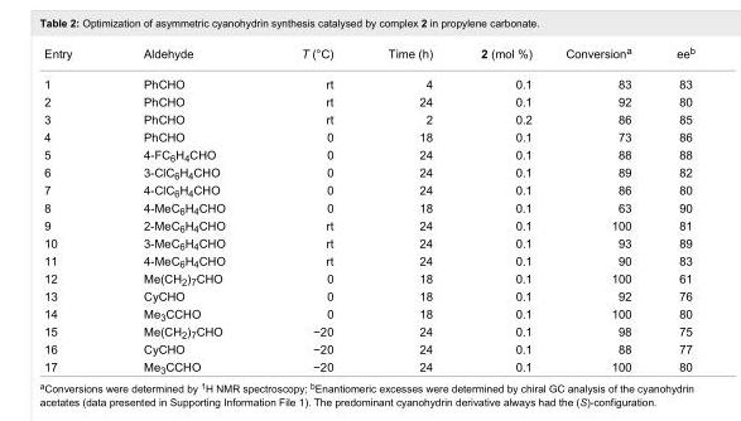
<table><tbody><tr><td>Entry</td><td>Aldehyde</td><td>T (°C)</td><td>Time (h)</td><td>2 (mol %)</td><td>Conversion<sup>a</sup></td><td>ee<sup>b</sup></td></tr><tr><td>1</td><td>PhCHO</td><td>rt</td><td>4</td><td>0.1</td><td>83</td><td>83</td></tr><tr><td>2</td><td>PhCHO</td><td>rt</td><td>24</td><td>0.1</td><td>92</td><td>80</td></tr><tr><td>3</td><td>PhCHO</td><td>rt</td><td>2</td><td>0.2</td><td>86</td><td>85</td></tr><tr><td>4</td><td>PhCHO</td><td>0</td><td>18</td><td>0.1</td><td>73</td><td>86</td></tr><tr><td>5</td><td>4-FC<sub>6</sub>H<sub>4</sub>CHO</td><td>0</td><td>24</td><td>0.1</td><td>88</td><td>88</td></tr><tr><td>6</td><td>3-ClC<sub>6</sub>H<sub>4</sub>CHO</td><td>0</td><td>24</td><td>0.1</td><td>89</td><td>82</td></tr><tr><td>7</td><td>4-ClC<sub>6</sub>H<sub>4</sub>CHO</td><td>0</td><td>24</td><td>0.1</td><td>86</td><td>80</td></tr><tr><td>8</td><td>4-MeC<sub>6</sub>H<sub>4</sub>CHO</td><td>0</td><td>18</td><td>0.1</td><td>63</td><td>90</td></tr><tr><td>9</td><td>2-MeC<sub>6</sub>H<sub>4</sub>CHO</td><td>rt</td><td>24</td><td>0.1</td><td>100</td><td>81</td></tr><tr><td>10</td><td>3-MeC<sub>6</sub>H<sub>4</sub>CHO</td><td>rt</td><td>24</td><td>0.1</td><td>93</td><td>89</td></tr><tr><td>11</td><td>4-MeC<sub>6</sub>H<sub>4</sub>CHO</td><td>rt</td><td>24</td><td>0.1</td><td>90</td><td>83</td></tr><tr><td>12</td><td>Me(CH<sub>2</sub>)<sub>7</sub>CHO</td><td>0</td><td>18</td><td>0.1</td><td>100</td><td>61</td></tr><tr><td>13</td><td>CyCHO</td><td>0</td><td>18</td><td>0.1</td><td>92</td><td>76</td></tr><tr><td>14</td><td>Me<sub>3</sub>CCHO</td><td>0</td><td>18</td><td>0.1</td><td>100</td><td>80</td></tr><tr><td>15</td><td>Me(CH<sub>2</sub>)<sub>7</sub>CHO</td><td>−20</td><td>24</td><td>0.1</td><td>98</td><td>75</td></tr><tr><td>16</td><td>CyCHO</td><td>−20</td><td>24</td><td>0.1</td><td>88</td><td>77</td></tr><tr><td>17</td><td>Me<sub>3</sub>CCHO</td><td>−20</td><td>24</td><td>0.1</td><td>100</td><td>80</td></tr></tbody></table>